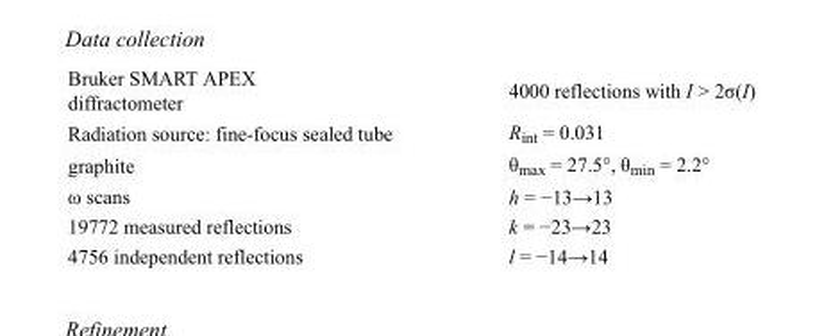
<table><tbody><tr><td>Bruker SMART APEX diffractometer</td><td>4000 reflections with I &gt; 2σ(I)</td></tr><tr><td>Radiation source: fine-focus sealed tube</td><td>R<sub>int</sub> = 0.031</td></tr><tr><td>graphite</td><td>θ<sub>max</sub> = 27.5°, θ<sub>min</sub> = 2.2°</td></tr><tr><td>ω scans</td><td>h = −13→13</td></tr><tr><td>19772 measured reflections</td><td>k = −23→23</td></tr><tr><td>4756 independent reflections</td><td>l = −14→14</td></tr></tbody></table>